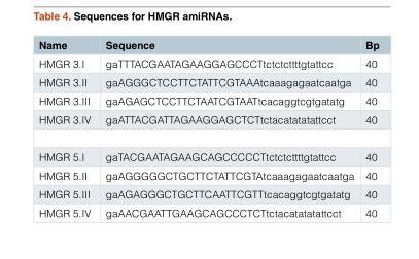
<table><thead><tr><td>Name</td><td>Sequence</td><td>Bp</td></tr></thead><tbody><tr><td>HMGR 3.I</td><td>gaTTTACGAATAGAAGGAGCCCTtctctcttttgtattcc</td><td>40</td></tr><tr><td>HMGR 3.II</td><td>gaAGGGCTCCTTCTATTCGTAAAtcaaagagaatcaatga</td><td>40</td></tr><tr><td>HMGR 3.III</td><td>gaAGAGCTCCTTCTAATCGTAATtcacaggtcgtgatatg</td><td>40</td></tr><tr><td>HMGR 3.IV</td><td>gaATTACGATTAGAAGGAGCTCTtctacatatatattcct</td><td>40</td></tr><tr><td>HMGR 5.I</td><td>gaTACGAATAGAAGCAGCCCCCTtctctcttttgtattcc</td><td>40</td></tr><tr><td>HMGR 5.II</td><td>gaAGGGGGCTGCTTCTATTCGTAtcaaagagaatcaatga</td><td>40</td></tr><tr><td>HMGR 5.III</td><td>gaAGAGGGCTGCTTCAATTCGTTtcacaggtcgtgatatg</td><td>40</td></tr><tr><td>HMGR 5.IV</td><td>gaAACGAATTGAAGCAGCCCTCTtctacatatatattcct</td><td>40</td></tr></tbody></table>